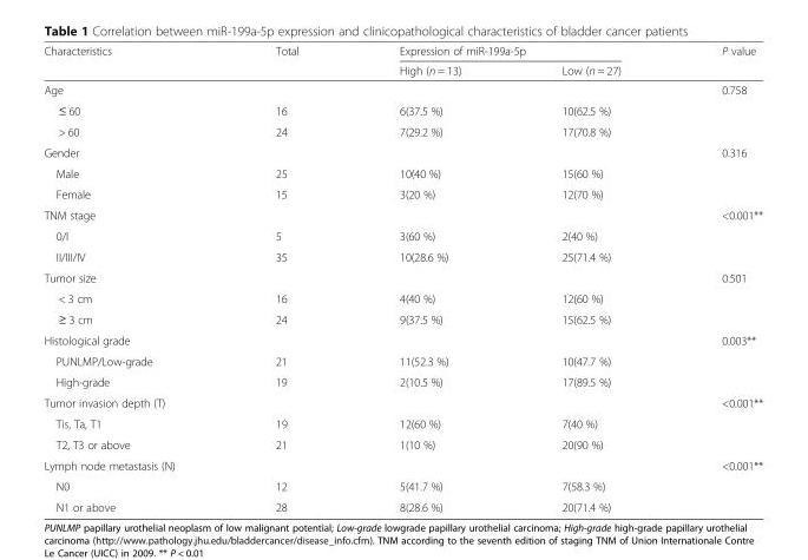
<table><thead><tr><td rowspan="2">Characteristics</td><td rowspan="2">Total</td><td colspan="2">Expression of miR-199a-5p</td><td rowspan="2">P value</td></tr><tr><td>High (n = 13)</td><td>Low (n = 27)</td></tr></thead><tbody><tr><td>Age</td><td></td><td></td><td></td><td>0.758</td></tr><tr><td>≤ 60</td><td>16</td><td>6(37.5 %)</td><td>10(62.5 %)</td><td></td></tr><tr><td>&gt; 60</td><td>24</td><td>7(29.2 %)</td><td>17(70.8 %)</td><td></td></tr><tr><td>Gender</td><td></td><td></td><td></td><td>0.316</td></tr><tr><td>Male</td><td>25</td><td>10(40 %)</td><td>15(60 %)</td><td></td></tr><tr><td>Female</td><td>15</td><td>3(20 %)</td><td>12(70 %)</td><td></td></tr><tr><td>TNM stage</td><td></td><td></td><td></td><td>&lt;0.001**</td></tr><tr><td>0/I</td><td>5</td><td>3(60 %)</td><td>2(40 %)</td><td></td></tr><tr><td>II/III/IV</td><td>35</td><td>10(28.6 %)</td><td>25(71.4 %)</td><td></td></tr><tr><td>Tumor size</td><td></td><td></td><td></td><td>0.501</td></tr><tr><td>&lt; 3 cm</td><td>16</td><td>4(40 %)</td><td>12(60 %)</td><td></td></tr><tr><td>≥ 3 cm</td><td>24</td><td>9(37.5 %)</td><td>15(62.5 %)</td><td></td></tr><tr><td>Histological grade</td><td></td><td></td><td></td><td>0.003**</td></tr><tr><td>PUNLMP/Low-grade</td><td>21</td><td>11(52.3 %)</td><td>10(47.7 %)</td><td></td></tr><tr><td>High-grade</td><td>19</td><td>2(10.5 %)</td><td>17(89.5 %)</td><td></td></tr><tr><td>Tumor invasion depth (T)</td><td></td><td></td><td></td><td>&lt;0.001**</td></tr><tr><td>Tis, Ta, T1</td><td>19</td><td>12(60 %)</td><td>7(40 %)</td><td></td></tr><tr><td>T2, T3 or above</td><td>21</td><td>1(10 %)</td><td>20(90 %)</td><td></td></tr><tr><td>Lymph node metastasis (N)</td><td></td><td></td><td></td><td>&lt;0.001**</td></tr><tr><td>N0</td><td>12</td><td>5(41.7 %)</td><td>7(58.3 %)</td><td></td></tr><tr><td>N1 or above</td><td>28</td><td>8(28.6 %)</td><td>20(71.4 %)</td><td></td></tr></tbody></table>